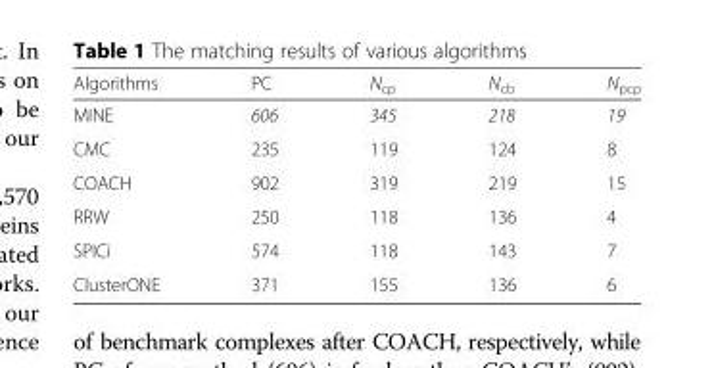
<table><thead><tr><td>Algorithms</td><td>PC</td><td>N<sub>cp</sub></td><td>N<sub>cb</sub></td><td>N<sub>pcp</sub></td></tr></thead><tbody><tr><td>MINE</td><td>606</td><td>345</td><td>218</td><td>19</td></tr><tr><td>CMC</td><td>235</td><td>119</td><td>124</td><td>8</td></tr><tr><td>COACH</td><td>902</td><td>319</td><td>219</td><td>15</td></tr><tr><td>RRW</td><td>250</td><td>118</td><td>136</td><td>4</td></tr><tr><td>SPICi</td><td>574</td><td>118</td><td>143</td><td>7</td></tr><tr><td>ClusterONE</td><td>371</td><td>155</td><td>136</td><td>6</td></tr></tbody></table>